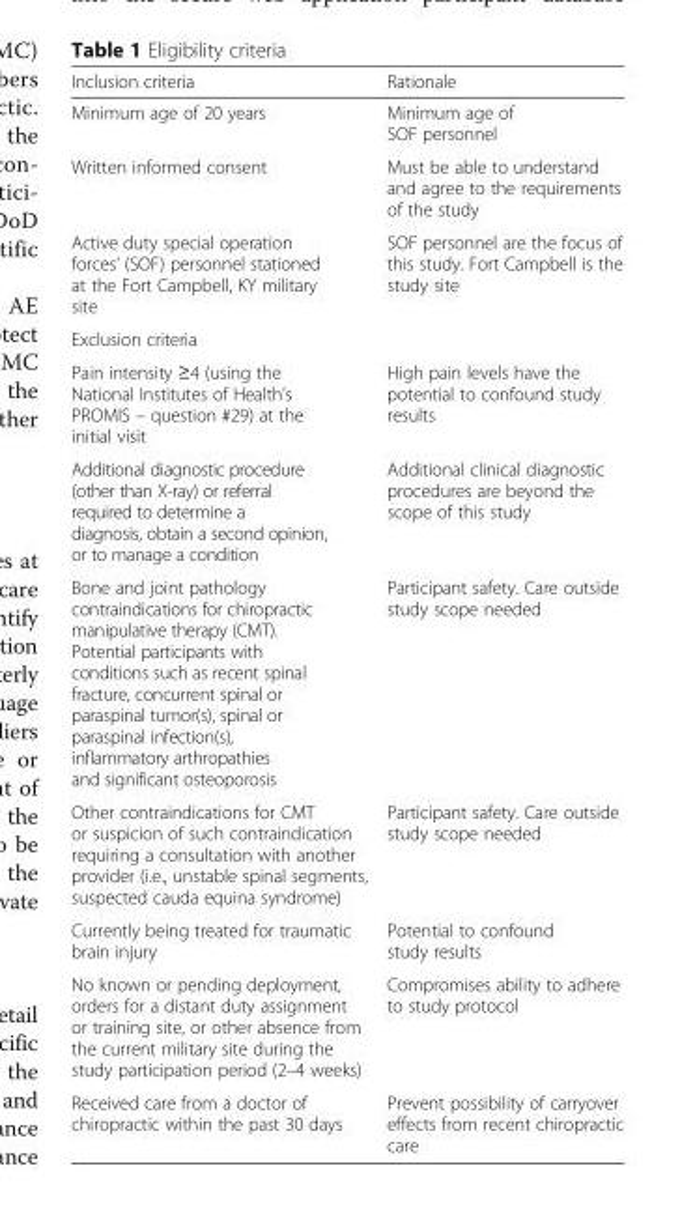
<table><thead><tr><td>Inclusion criteria</td><td>Rationale</td></tr></thead><tbody><tr><td>Minimum age of 20 years</td><td>Minimum age of SOF personnel</td></tr><tr><td>Written informed consent</td><td>Must be able to understand and agree to the requirements of the study</td></tr><tr><td>Active duty special operation forces’ (SOF) personnel stationed at the Fort Campbell, KY military site</td><td>SOF personnel are the focus of this study. Fort Campbell is the study site</td></tr><tr><td colspan="2">Exclusion criteria</td></tr><tr><td>Pain intensity ≥4 (using the National Institutes of Health’s PROMIS – question #29) at the initial visit</td><td>High pain levels have the potential to confound study results</td></tr><tr><td>Additional diagnostic procedure (other than X-ray) or referral required to determine a diagnosis, obtain a second opinion, or to manage a condition</td><td>Additional clinical diagnostic procedures are beyond the scope of this study</td></tr><tr><td>Bone and joint pathology contraindications for chiropractic manipulative therapy (CMT). Potential participants with conditions such as recent spinal fracture, concurrent spinal or paraspinal tumor(s), spinal or paraspinal infection(s), inflammatory arthropathies and significant osteoporosis</td><td>Participant safety. Care outside study scope needed</td></tr><tr><td>Other contraindications for CMT or suspicion of such contraindication requiring a consultation with another provider (i.e., unstable spinal segments, suspected cauda equina syndrome)</td><td>Participant safety. Care outside study scope needed</td></tr><tr><td>Currently being treated for traumatic brain injury</td><td>Potential to confound study results</td></tr><tr><td>No known or pending deployment, orders for a distant duty assignment or training site, or other absence from the current military site during the study participation period (2–4 weeks)</td><td>Compromises ability to adhere to study protocol</td></tr><tr><td>Received care from a doctor of chiropractic within the past 30 days</td><td>Prevent possibility of carryover effects from recent chiropractic care</td></tr></tbody></table>